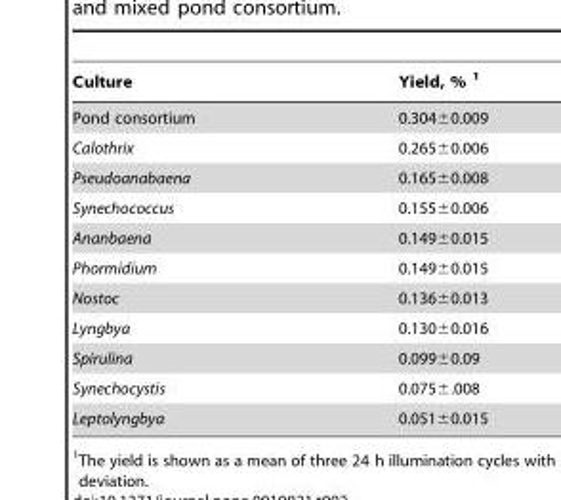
<table><thead><tr><td>Culture</td><td>Yield, % 1</td></tr></thead><tbody><tr><td>Pond consortium</td><td>0.304±0.009</td></tr><tr><td>Calothrix</td><td>0.265±0.006</td></tr><tr><td>Pseudoanabaena</td><td>0.165±0.008</td></tr><tr><td>Synechococcus</td><td>0.155±0.006</td></tr><tr><td>Ananbaena</td><td>0.149±0.015</td></tr><tr><td>Phormidium</td><td>0.149±0.015</td></tr><tr><td>Nostoc</td><td>0.136±0.013</td></tr><tr><td>Lyngbya</td><td>0.130±0.016</td></tr><tr><td>Spirulina</td><td>0.099±0.09</td></tr><tr><td>Synechocystis</td><td>0.075±.008</td></tr><tr><td>Leptolyngbya</td><td>0.051±0.015</td></tr></tbody></table>